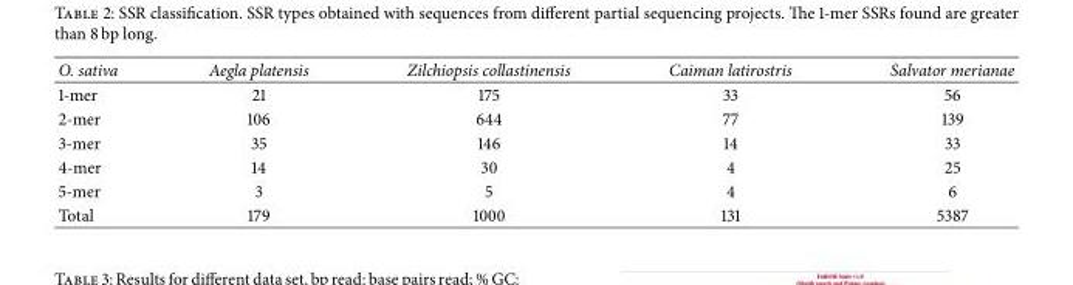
<table><thead><tr><td>O. sativa</td><td>Aegla platensis</td><td>Zilchiopsis collastinensis</td><td>Caiman latirostris</td><td>Salvator merianae</td></tr></thead><tbody><tr><td>1-mer</td><td>21</td><td>175</td><td>33</td><td>56</td></tr><tr><td>2-mer</td><td>106</td><td>644</td><td>77</td><td>139</td></tr><tr><td>3-mer</td><td>35</td><td>146</td><td>14</td><td>33</td></tr><tr><td>4-mer</td><td>14</td><td>30</td><td>4</td><td>25</td></tr><tr><td>5-mer</td><td>3</td><td>5</td><td>4</td><td>6</td></tr><tr><td>Total</td><td>179</td><td>1000</td><td>131</td><td>5387</td></tr></tbody></table>